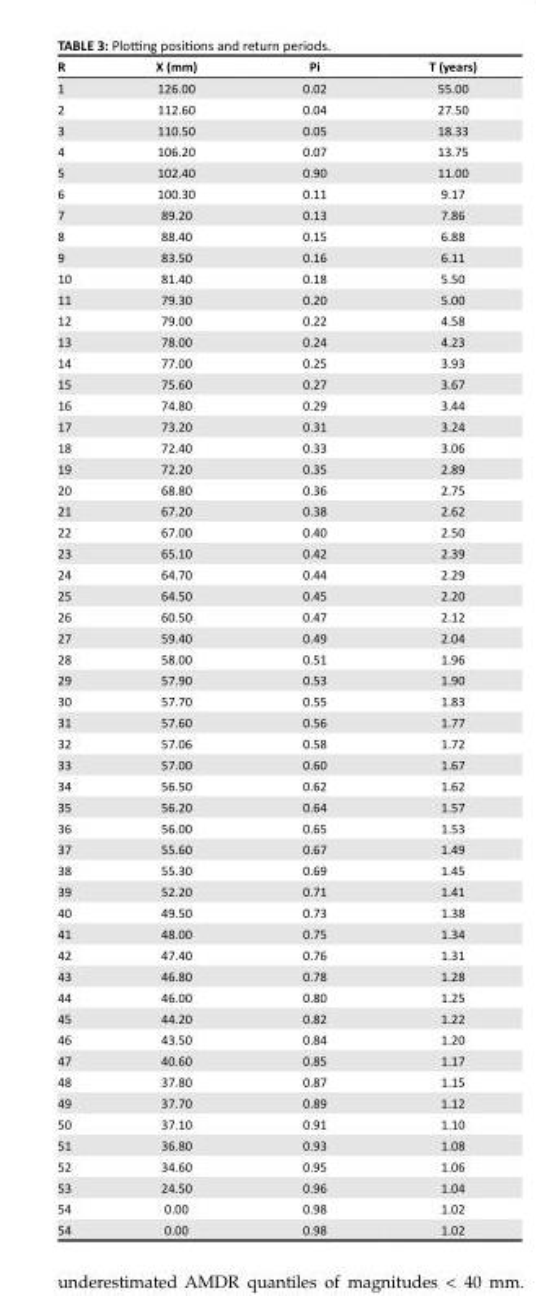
<table><thead><tr><td>R</td><td>X (mm)</td><td>Pi</td><td>T (years)</td></tr></thead><tbody><tr><td>1</td><td>126.00</td><td>0.02</td><td>55.00</td></tr><tr><td>2</td><td>112.60</td><td>0.04</td><td>27.50</td></tr><tr><td>3</td><td>110.50</td><td>0.05</td><td>18.33</td></tr><tr><td>4</td><td>106.20</td><td>0.07</td><td>13.75</td></tr><tr><td>5</td><td>102.40</td><td>0.90</td><td>11.00</td></tr><tr><td>6</td><td>100.30</td><td>0.11</td><td>9.17</td></tr><tr><td>7</td><td>89.20</td><td>0.13</td><td>7.86</td></tr><tr><td>8</td><td>88.40</td><td>0.15</td><td>6.88</td></tr><tr><td>9</td><td>83.50</td><td>0.16</td><td>6.11</td></tr><tr><td>10</td><td>81.40</td><td>0.18</td><td>5.50</td></tr><tr><td>11</td><td>79.30</td><td>0.20</td><td>5.00</td></tr><tr><td>12</td><td>79.00</td><td>0.22</td><td>4.58</td></tr><tr><td>13</td><td>78.00</td><td>0.24</td><td>4.23</td></tr><tr><td>14</td><td>77.00</td><td>0.25</td><td>3.93</td></tr><tr><td>15</td><td>75.60</td><td>0.27</td><td>3.67</td></tr><tr><td>16</td><td>74.80</td><td>0.29</td><td>3.44</td></tr><tr><td>17</td><td>73.20</td><td>0.31</td><td>3.24</td></tr><tr><td>18</td><td>72.40</td><td>0.33</td><td>3.06</td></tr><tr><td>19</td><td>72.20</td><td>0.35</td><td>2.89</td></tr><tr><td>20</td><td>68.80</td><td>0.36</td><td>2.75</td></tr><tr><td>21</td><td>67.20</td><td>0.38</td><td>2.62</td></tr><tr><td>22</td><td>67.00</td><td>0.40</td><td>2.50</td></tr><tr><td>23</td><td>65.10</td><td>0.42</td><td>2.39</td></tr><tr><td>24</td><td>64.70</td><td>0.44</td><td>2.29</td></tr><tr><td>25</td><td>64.50</td><td>0.45</td><td>2.20</td></tr><tr><td>26</td><td>60.50</td><td>0.47</td><td>2.12</td></tr><tr><td>27</td><td>59.40</td><td>0.49</td><td>2.04</td></tr><tr><td>28</td><td>58.00</td><td>0.51</td><td>1.96</td></tr><tr><td>29</td><td>57.90</td><td>0.53</td><td>1.90</td></tr><tr><td>30</td><td>57.70</td><td>0.55</td><td>1.83</td></tr><tr><td>31</td><td>57.60</td><td>0.56</td><td>1.77</td></tr><tr><td>32</td><td>57.06</td><td>0.58</td><td>1.72</td></tr><tr><td>33</td><td>57.00</td><td>0.60</td><td>1.67</td></tr><tr><td>34</td><td>56.50</td><td>0.62</td><td>1.62</td></tr><tr><td>35</td><td>56.20</td><td>0.64</td><td>1.57</td></tr><tr><td>36</td><td>56.00</td><td>0.65</td><td>1.53</td></tr><tr><td>37</td><td>55.60</td><td>0.67</td><td>1.49</td></tr><tr><td>38</td><td>55.30</td><td>0.69</td><td>1.45</td></tr><tr><td>39</td><td>52.20</td><td>0.71</td><td>1.41</td></tr><tr><td>40</td><td>49.50</td><td>0.73</td><td>1.38</td></tr><tr><td>41</td><td>48.00</td><td>0.75</td><td>1.34</td></tr><tr><td>42</td><td>47.40</td><td>0.76</td><td>1.31</td></tr><tr><td>43</td><td>46.80</td><td>0.78</td><td>1.28</td></tr><tr><td>44</td><td>46.00</td><td>0.80</td><td>1.25</td></tr><tr><td>45</td><td>44.20</td><td>0.82</td><td>1.22</td></tr><tr><td>46</td><td>43.50</td><td>0.84</td><td>1.20</td></tr><tr><td>47</td><td>40.60</td><td>0.85</td><td>1.17</td></tr><tr><td>48</td><td>37.80</td><td>0.87</td><td>1.15</td></tr><tr><td>49</td><td>37.70</td><td>0.89</td><td>1.12</td></tr><tr><td>50</td><td>37.10</td><td>0.91</td><td>1.10</td></tr><tr><td>51</td><td>36.80</td><td>0.93</td><td>1.08</td></tr><tr><td>52</td><td>34.60</td><td>0.95</td><td>1.06</td></tr><tr><td>53</td><td>24.50</td><td>0.96</td><td>1.04</td></tr><tr><td>54</td><td>0.00</td><td>0.98</td><td>1.02</td></tr><tr><td>54</td><td>0.00</td><td>0.98</td><td>1.02</td></tr></tbody></table>